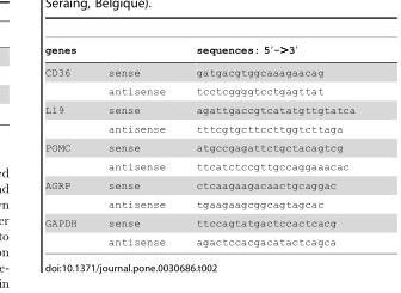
<table><thead><tr><td>genes</td><td></td><td>sequences: 5′-&gt;3′</td></tr></thead><tbody><tr><td rowspan="2">CD36</td><td>sense</td><td>gatgacgtggcaaagaacag</td></tr><tr><td>antisense</td><td>tcctcggggtcctgagttat</td></tr><tr><td rowspan="2">L19</td><td>sense</td><td>agattgaccgtcatatgttgtatca</td></tr><tr><td>antisense</td><td>tttcgtgcttccttggtcttaga</td></tr><tr><td rowspan="2">POMC</td><td>sense</td><td>atgccgagattctgctacagtcg</td></tr><tr><td>antisense</td><td>ttcatctccgttgccaggaaacac</td></tr><tr><td rowspan="2">AGRP</td><td>sense</td><td>ctcaagaagacaactgcaggac</td></tr><tr><td>antisense</td><td>tgaagaagcggcagtagcac</td></tr><tr><td rowspan="2">GAPDH</td><td>sense</td><td>ttccagtatgactccactcacg</td></tr><tr><td>antisense</td><td>agactccacgacatactcagca</td></tr></tbody></table>